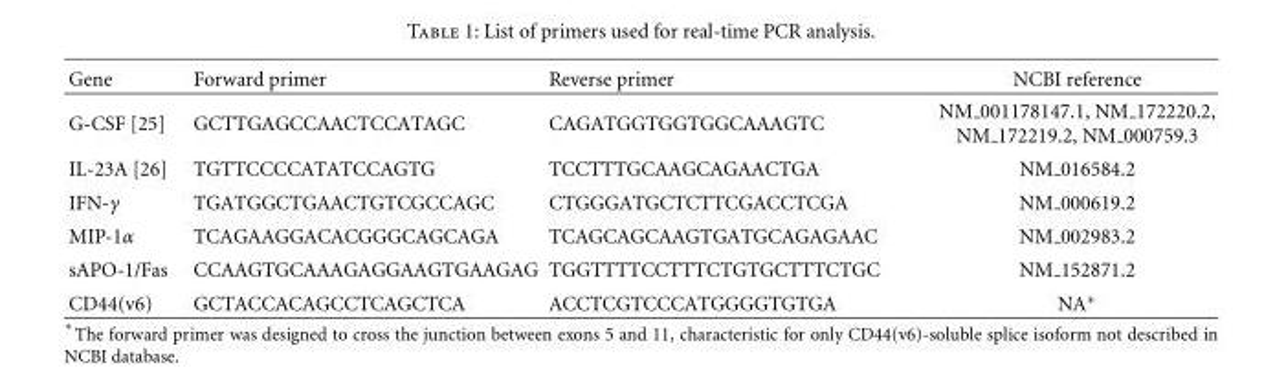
<table><thead><tr><td>Gene</td><td>Forward primer</td><td>Reverse primer</td><td>NCBI reference</td></tr></thead><tbody><tr><td>G-CSF [25]</td><td>GCTTGAGCCAACTCCATAGC</td><td>CAGATGGTGGTGGCAAAGTC</td><td>NM <sub>001178147.1, NM</sub> 172220.2, NM <sub>172219.2, NM</sub> 000759.3</td></tr><tr><td>IL-23A [26]</td><td>TGTTCCCCATATCCAGTG</td><td>TCCTTTGCAAGCAGAACTGA</td><td>NM 016584.2</td></tr><tr><td>IFN-γ</td><td>TGATGGCTGAACTGTCGCCAGC</td><td>CTGGGATGCTCTTCGACCTCGA</td><td>NM 000619.2</td></tr><tr><td>MIP-1α</td><td>TCAGAAGGACACGGGCAGCAGA</td><td>TCAGCAGCAAGTGATGCAGAGAAC</td><td>NM 002983.2</td></tr><tr><td>sAPO-1/Fas</td><td>CCAAGTGCAAAGAGGAAGTGAAGAG</td><td>TGGTTTTCCTTTCTGTGCTTTCTGC</td><td>NM 152871.2</td></tr><tr><td>CD44(v6)</td><td>GCTACCACAGCCTCAGCTCA</td><td>ACCTCGTCCCATGGGGTGTGA</td><td>NA∗</td></tr></tbody></table>